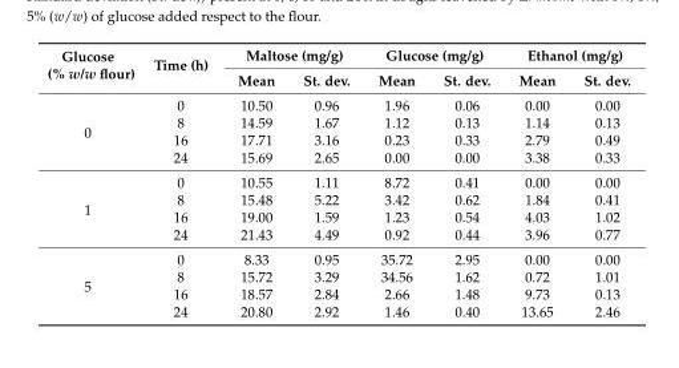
<table><thead><tr><td rowspan="2">Glucose (% w/w flour)</td><td rowspan="2">Time (h)</td><td colspan="2">Maltose (mg/g)</td><td colspan="2">Glucose (mg/g)</td><td colspan="2">Ethanol (mg/g)</td></tr><tr><td>Mean</td><td>St. dev.</td><td>Mean</td><td>St. dev.</td><td>Mean</td><td>St. dev.</td></tr></thead><tbody><tr><td rowspan="4">0</td><td>0</td><td>10.50</td><td>0.96</td><td>1.96</td><td>0.06</td><td>0.00</td><td>0.00</td></tr><tr><td>8</td><td>14.59</td><td>1.67</td><td>1.12</td><td>0.13</td><td>1.14</td><td>0.13</td></tr><tr><td>16</td><td>17.71</td><td>3.16</td><td>0.23</td><td>0.33</td><td>2.79</td><td>0.49</td></tr><tr><td>24</td><td>15.69</td><td>2.65</td><td>0.00</td><td>0.00</td><td>3.38</td><td>0.33</td></tr><tr><td rowspan="4">1</td><td>0</td><td>10.55</td><td>1.11</td><td>8.72</td><td>0.41</td><td>0.00</td><td>0.00</td></tr><tr><td>8</td><td>15.48</td><td>5.22</td><td>3.42</td><td>0.62</td><td>1.84</td><td>0.41</td></tr><tr><td>16</td><td>19.00</td><td>1.59</td><td>1.23</td><td>0.54</td><td>4.03</td><td>1.02</td></tr><tr><td>24</td><td>21.43</td><td>4.49</td><td>0.92</td><td>0.44</td><td>3.96</td><td>0.77</td></tr><tr><td rowspan="4">5</td><td>0</td><td>8.33</td><td>0.95</td><td>35.72</td><td>2.95</td><td>0.00</td><td>0.00</td></tr><tr><td>8</td><td>15.72</td><td>3.29</td><td>34.56</td><td>1.62</td><td>0.72</td><td>1.01</td></tr><tr><td>16</td><td>18.57</td><td>2.84</td><td>2.66</td><td>1.48</td><td>9.73</td><td>0.13</td></tr><tr><td>24</td><td>20.80</td><td>2.92</td><td>1.46</td><td>0.40</td><td>13.65</td><td>2.46</td></tr></tbody></table>